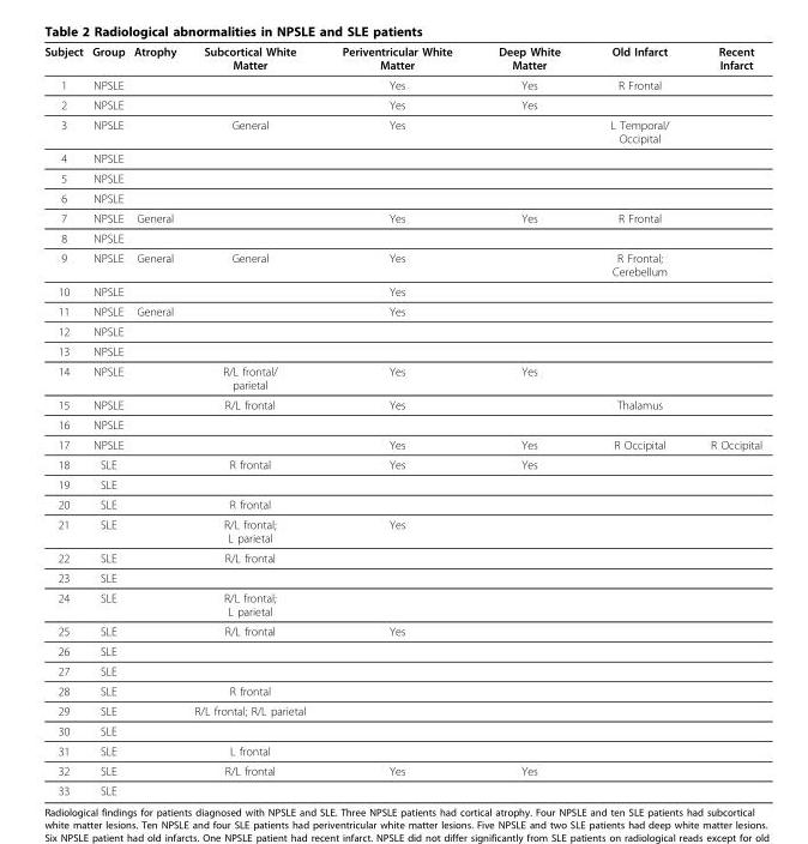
<table><thead><tr><td>Subject</td><td>Group</td><td>Atrophy</td><td>Subcortical White Matter</td><td>Periventricular White Matter</td><td>Deep White Matter</td><td>Old Infarct</td><td>Recent Infarct</td></tr></thead><tbody><tr><td>1</td><td>NPSLE</td><td></td><td></td><td>Yes</td><td>Yes</td><td>R Frontal</td><td></td></tr><tr><td>2</td><td>NPSLE</td><td></td><td></td><td>Yes</td><td>Yes</td><td></td><td></td></tr><tr><td>3</td><td>NPSLE</td><td></td><td>General</td><td>Yes</td><td></td><td>L Temporal/ Occipital</td><td></td></tr><tr><td>4</td><td>NPSLE</td><td></td><td></td><td></td><td></td><td></td><td></td></tr><tr><td>5</td><td>NPSLE</td><td></td><td></td><td></td><td></td><td></td><td></td></tr><tr><td>6</td><td>NPSLE</td><td></td><td></td><td></td><td></td><td></td><td></td></tr><tr><td>7</td><td>NPSLE</td><td>General</td><td></td><td>Yes</td><td>Yes</td><td>R Frontal</td><td></td></tr><tr><td>8</td><td>NPSLE</td><td></td><td></td><td></td><td></td><td></td><td></td></tr><tr><td>9</td><td>NPSLE</td><td>General</td><td>General</td><td>Yes</td><td></td><td>R Frontal; Cerebellum</td><td></td></tr><tr><td>10</td><td>NPSLE</td><td></td><td></td><td>Yes</td><td></td><td></td><td></td></tr><tr><td>11</td><td>NPSLE</td><td>General</td><td></td><td>Yes</td><td></td><td></td><td></td></tr><tr><td>12</td><td>NPSLE</td><td></td><td></td><td></td><td></td><td></td><td></td></tr><tr><td>13</td><td>NPSLE</td><td></td><td></td><td></td><td></td><td></td><td></td></tr><tr><td>14</td><td>NPSLE</td><td></td><td>R/L frontal/ parietal</td><td>Yes</td><td>Yes</td><td></td><td></td></tr><tr><td>15</td><td>NPSLE</td><td></td><td>R/L frontal</td><td>Yes</td><td></td><td>Thalamus</td><td></td></tr><tr><td>16</td><td>NPSLE</td><td></td><td></td><td></td><td></td><td></td><td></td></tr><tr><td>17</td><td>NPSLE</td><td></td><td></td><td>Yes</td><td>Yes</td><td>R Occipital</td><td>R Occipital</td></tr><tr><td>18</td><td>SLE</td><td></td><td>R frontal</td><td>Yes</td><td>Yes</td><td></td><td></td></tr><tr><td>19</td><td>SLE</td><td></td><td></td><td></td><td></td><td></td><td></td></tr><tr><td>20</td><td>SLE</td><td></td><td>R frontal</td><td></td><td></td><td></td><td></td></tr><tr><td>21</td><td>SLE</td><td></td><td>R/L frontal; L parietal</td><td>Yes</td><td></td><td></td><td></td></tr><tr><td>22</td><td>SLE</td><td></td><td>R/L frontal</td><td></td><td></td><td></td><td></td></tr><tr><td>23</td><td>SLE</td><td></td><td></td><td></td><td></td><td></td><td></td></tr><tr><td>24</td><td>SLE</td><td></td><td>R/L frontal; L parietal</td><td></td><td></td><td></td><td></td></tr><tr><td>25</td><td>SLE</td><td></td><td>R/L frontal</td><td>Yes</td><td></td><td></td><td></td></tr><tr><td>26</td><td>SLE</td><td></td><td></td><td></td><td></td><td></td><td></td></tr><tr><td>27</td><td>SLE</td><td></td><td></td><td></td><td></td><td></td><td></td></tr><tr><td>28</td><td>SLE</td><td></td><td>R frontal</td><td></td><td></td><td></td><td></td></tr><tr><td>29</td><td>SLE</td><td></td><td>R/L frontal; R/L parietal</td><td></td><td></td><td></td><td></td></tr><tr><td>30</td><td>SLE</td><td></td><td></td><td></td><td></td><td></td><td></td></tr><tr><td>31</td><td>SLE</td><td></td><td>L frontal</td><td></td><td></td><td></td><td></td></tr><tr><td>32</td><td>SLE</td><td></td><td>R/L frontal</td><td>Yes</td><td>Yes</td><td></td><td></td></tr><tr><td>33</td><td>SLE</td><td></td><td></td><td></td><td></td><td></td><td></td></tr></tbody></table>